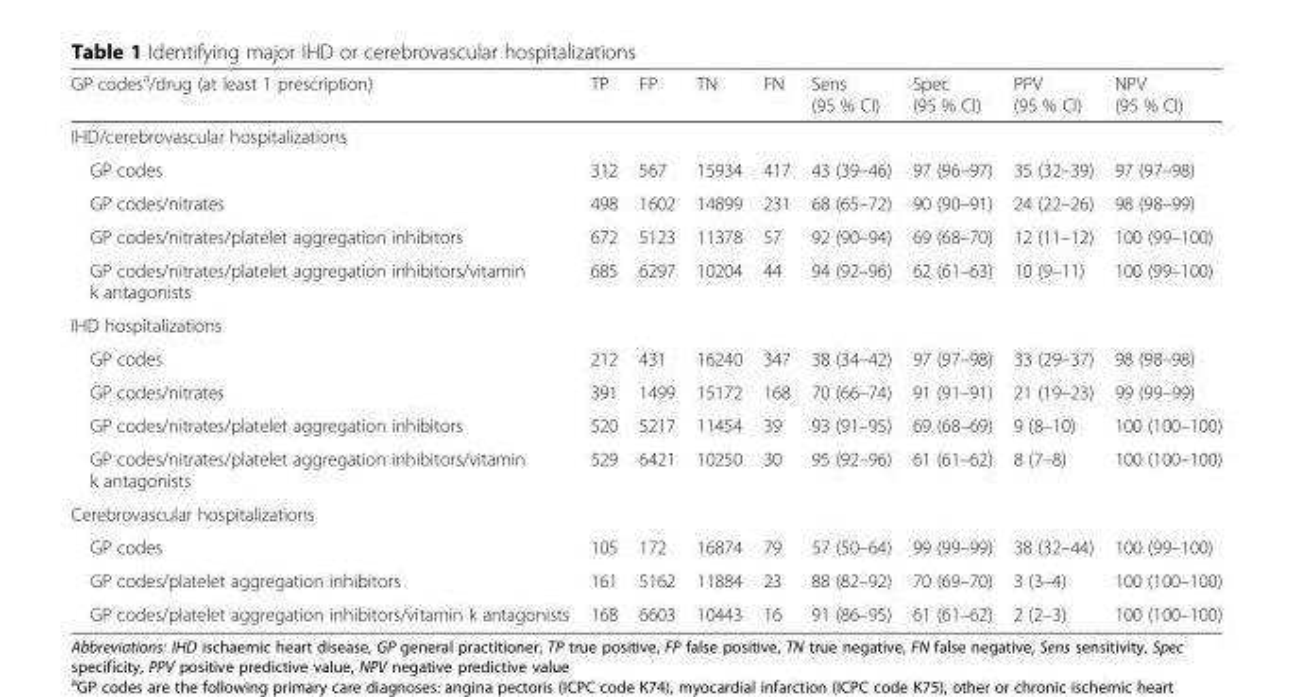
<table><thead><tr><td>GP codes<sup>a</sup>/drug (at least 1 prescription)</td><td>TP</td><td>FP</td><td>TN</td><td>FN</td><td>Sens (95 % CI)</td><td>Spec (95 % CI)</td><td>PPV (95 % CI)</td><td>NPV (95 % CI)</td></tr></thead><tbody><tr><td colspan="9">IHD/cerebrovascular hospitalizations</td></tr><tr><td>GP codes</td><td>312</td><td>567</td><td>15934</td><td>417</td><td>43 (39–46)</td><td>97 (96–97)</td><td>35 (32–39)</td><td>97 (97–98)</td></tr><tr><td>GP codes/nitrates</td><td>498</td><td>1602</td><td>14899</td><td>231</td><td>68 (65–72)</td><td>90 (90–91)</td><td>24 (22–26)</td><td>98 (98–99)</td></tr><tr><td>GP codes/nitrates/platelet aggregation inhibitors</td><td>672</td><td>5123</td><td>11378</td><td>57</td><td>92 (90–94)</td><td>69 (68–70)</td><td>12 (11–12)</td><td>100 (99–100)</td></tr><tr><td>GP codes/nitrates/platelet aggregation inhibitors/vitamin k antagonists</td><td>685</td><td>6297</td><td>10204</td><td>44</td><td>94 (92–96)</td><td>62 (61–63)</td><td>10 (9–11)</td><td>100 (99–100)</td></tr><tr><td colspan="9">IHD hospitalizations</td></tr><tr><td>GP codes</td><td>212</td><td>431</td><td>16240</td><td>347</td><td>38 (34–42)</td><td>97 (97–98)</td><td>33 (29–37)</td><td>98 (98–98)</td></tr><tr><td>GP codes/nitrates</td><td>391</td><td>1499</td><td>15172</td><td>168</td><td>70 (66–74)</td><td>91 (91–91)</td><td>21 (19–23)</td><td>99 (99–99)</td></tr><tr><td>GP codes/nitrates/platelet aggregation inhibitors</td><td>520</td><td>5217</td><td>11454</td><td>39</td><td>93 (91–95)</td><td>69 (68–69)</td><td>9 (8–10)</td><td>100 (100–100)</td></tr><tr><td>GP codes/nitrates/platelet aggregation inhibitors/vitamin k antagonists</td><td>529</td><td>6421</td><td>10250</td><td>30</td><td>95 (92–96)</td><td>61 (61–62)</td><td>8 (7–8)</td><td>100 (100–100)</td></tr><tr><td colspan="9">Cerebrovascular hospitalizations</td></tr><tr><td>GP codes</td><td>105</td><td>172</td><td>16874</td><td>79</td><td>57 (50–64)</td><td>99 (99–99)</td><td>38 (32–44)</td><td>100 (99–100)</td></tr><tr><td>GP codes/platelet aggregation inhibitors</td><td>161</td><td>5162</td><td>11884</td><td>23</td><td>88 (82–92)</td><td>70 (69–70)</td><td>3 (3–4)</td><td>100 (100–100)</td></tr><tr><td>GP codes/platelet aggregation inhibitors/vitamin k antagonists</td><td>168</td><td>6603</td><td>10443</td><td>16</td><td>91 (86–95)</td><td>61 (61–62)</td><td>2 (2–3)</td><td>100 (100–100)</td></tr></tbody></table>